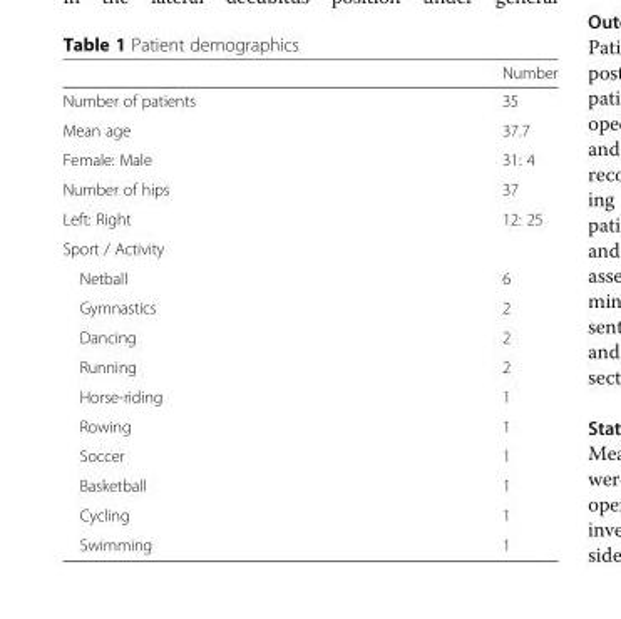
<table><thead><tr><td></td><td>Number</td></tr></thead><tbody><tr><td>Number of patients</td><td>35</td></tr><tr><td>Mean age</td><td>37.7</td></tr><tr><td>Female: Male</td><td>31: 4</td></tr><tr><td>Number of hips</td><td>37</td></tr><tr><td>Left: Right</td><td>12: 25</td></tr><tr><td colspan="2">Sport / Activity</td></tr><tr><td>Netball</td><td>6</td></tr><tr><td>Gymnastics</td><td>2</td></tr><tr><td>Dancing</td><td>2</td></tr><tr><td>Running</td><td>2</td></tr><tr><td>Horse-riding</td><td>1</td></tr><tr><td>Rowing</td><td>1</td></tr><tr><td>Soccer</td><td>1</td></tr><tr><td>Basketball</td><td>1</td></tr><tr><td>Cycling</td><td>1</td></tr><tr><td>Swimming</td><td>1</td></tr></tbody></table>